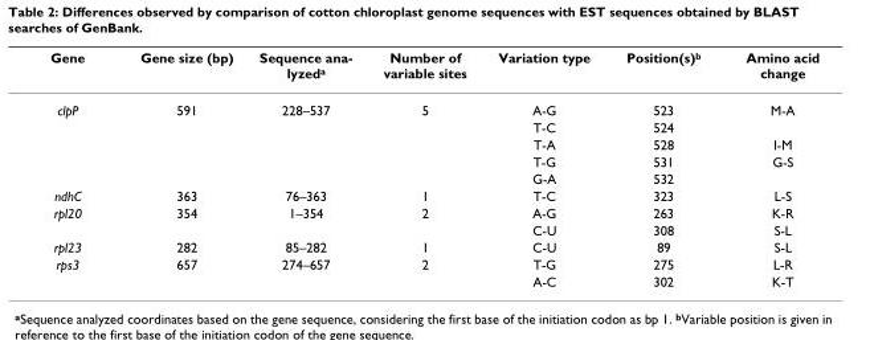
<table><thead><tr><td>Gene</td><td>Gene size (bp)</td><td>Sequence ana- lyzeda</td><td>Number of variable sites</td><td>Variation type</td><td>Position(s)b</td><td>Amino acid change</td></tr></thead><tbody><tr><td rowspan="5">clpP</td><td>591</td><td>228–537</td><td>5</td><td>A-G</td><td>523</td><td>M-A</td></tr><tr><td></td><td></td><td></td><td>T-C</td><td>524</td><td></td></tr><tr><td></td><td></td><td></td><td>T-A</td><td>528</td><td>I-M</td></tr><tr><td></td><td></td><td></td><td>T-G</td><td>531</td><td>G-S</td></tr><tr><td></td><td></td><td></td><td>G-A</td><td>532</td><td></td></tr><tr><td>ndhC</td><td>363</td><td>76–363</td><td>1</td><td>T-C</td><td>323</td><td>L-S</td></tr><tr><td rowspan="2">rpl20</td><td>354</td><td>1–354</td><td>2</td><td>A-G</td><td>263</td><td>K-R</td></tr><tr><td></td><td></td><td></td><td>C-U</td><td>308</td><td>S-L</td></tr><tr><td>rpl23</td><td>282</td><td>85–282</td><td>1</td><td>C-U</td><td>89</td><td>S-L</td></tr><tr><td rowspan="2">rps3</td><td>657</td><td>274–657</td><td>2</td><td>T-G</td><td>275</td><td>L-R</td></tr><tr><td></td><td></td><td></td><td>A-C</td><td>302</td><td>K-T</td></tr></tbody></table>